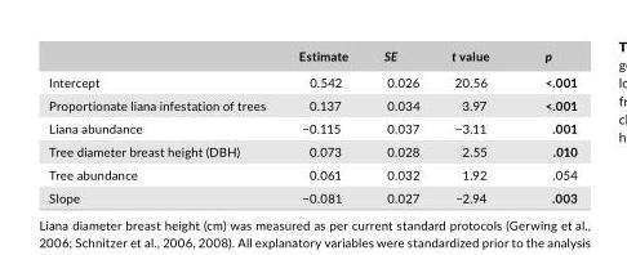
<table><thead><tr><td></td><td>Estimate</td><td>SE</td><td>t value</td><td>p</td></tr></thead><tbody><tr><td>Intercept</td><td>0.542</td><td>0.026</td><td>20.56</td><td>&lt;.001</td></tr><tr><td>Proportionate liana infestation of trees</td><td>0.137</td><td>0.034</td><td>3.97</td><td>&lt;.001</td></tr><tr><td>Liana abundance</td><td>−0.115</td><td>0.037</td><td>−3.11</td><td>.001</td></tr><tr><td>Tree diameter breast height (DBH)</td><td>0.073</td><td>0.028</td><td>2.55</td><td>.010</td></tr><tr><td>Tree abundance</td><td>0.061</td><td>0.032</td><td>1.92</td><td>.054</td></tr><tr><td>Slope</td><td>−0.081</td><td>0.027</td><td>−2.94</td><td>.003</td></tr></tbody></table>